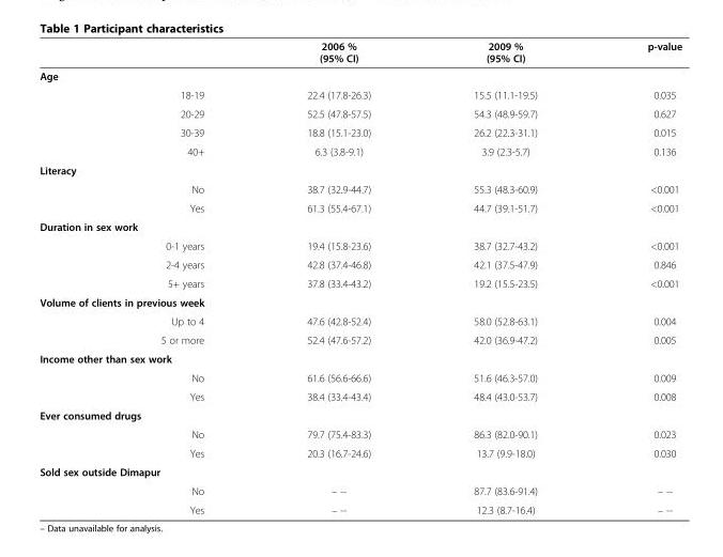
<table><thead><tr><td></td><td>2006 % (95% CI)</td><td>2009 % (95% CI)</td><td>p-value</td></tr></thead><tbody><tr><td colspan="4">Age</td></tr><tr><td>18-19</td><td>22.4 (17.8-26.3)</td><td>15.5 (11.1-19.5)</td><td>0.035</td></tr><tr><td>20-29</td><td>52.5 (47.8-57.5)</td><td>54.3 (48.9-59.7)</td><td>0.627</td></tr><tr><td>30-39</td><td>18.8 (15.1-23.0)</td><td>26.2 (22.3-31.1)</td><td>0.015</td></tr><tr><td>40+</td><td>6.3 (3.8-9.1)</td><td>3.9 (2.3-5.7)</td><td>0.136</td></tr><tr><td colspan="4">Literacy</td></tr><tr><td>No</td><td>38.7 (32.9-44.7)</td><td>55.3 (48.3-60.9)</td><td>&lt;0.001</td></tr><tr><td>Yes</td><td>61.3 (55.4-67.1)</td><td>44.7 (39.1-51.7)</td><td>&lt;0.001</td></tr><tr><td colspan="4">Duration in sex work</td></tr><tr><td>0-1 years</td><td>19.4 (15.8-23.6)</td><td>38.7 (32.7-43.2)</td><td>&lt;0.001</td></tr><tr><td>2-4 years</td><td>42.8 (37.4-46.8)</td><td>42.1 (37.5-47.9)</td><td>0.846</td></tr><tr><td>5+ years</td><td>37.8 (33.4-43.2)</td><td>19.2 (15.5-23.5)</td><td>&lt;0.001</td></tr><tr><td colspan="4">Volume of clients in previous week</td></tr><tr><td>Up to 4</td><td>47.6 (42.8-52.4)</td><td>58.0 (52.8-63.1)</td><td>0.004</td></tr><tr><td>5 or more</td><td>52.4 (47.6-57.2)</td><td>42.0 (36.9-47.2)</td><td>0.005</td></tr><tr><td colspan="4">Income other than sex work</td></tr><tr><td>No</td><td>61.6 (56.6-66.6)</td><td>51.6 (46.3-57.0)</td><td>0.009</td></tr><tr><td>Yes</td><td>38.4 (33.4-43.4)</td><td>48.4 (43.0-53.7)</td><td>0.008</td></tr><tr><td colspan="4">Ever consumed drugs</td></tr><tr><td>No</td><td>79.7 (75.4-83.3)</td><td>86.3 (82.0-90.1)</td><td>0.023</td></tr><tr><td>Yes</td><td>20.3 (16.7-24.6)</td><td>13.7 (9.9-18.0)</td><td>0.030</td></tr><tr><td colspan="4">Sold sex outside Dimapur</td></tr><tr><td>No</td><td>– --</td><td>87.7 (83.6-91.4)</td><td>– --</td></tr><tr><td>Yes</td><td>– --</td><td>12.3 (8.7-16.4)</td><td>– --</td></tr></tbody></table>